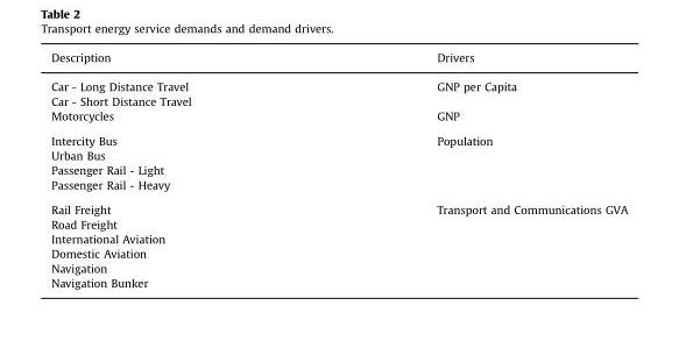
<table><thead><tr><td>Description</td><td>Drivers</td></tr></thead><tbody><tr><td>Car - Long Distance Travel</td><td rowspan="2">GNP per Capita</td></tr><tr><td>Car - Short Distance Travel</td></tr><tr><td>Motorcycles</td><td>GNP</td></tr><tr><td>Intercity Bus</td><td rowspan="4">Population</td></tr><tr><td>Urban Bus</td></tr><tr><td>Passenger Rail - Light</td></tr><tr><td>Passenger Rail - Heavy</td></tr><tr><td>Rail Freight</td><td rowspan="6">Transport and Communications GVA</td></tr><tr><td>Road Freight</td></tr><tr><td>International Aviation</td></tr><tr><td>Domestic Aviation</td></tr><tr><td>Navigation</td></tr><tr><td>Navigation Bunker</td></tr></tbody></table>